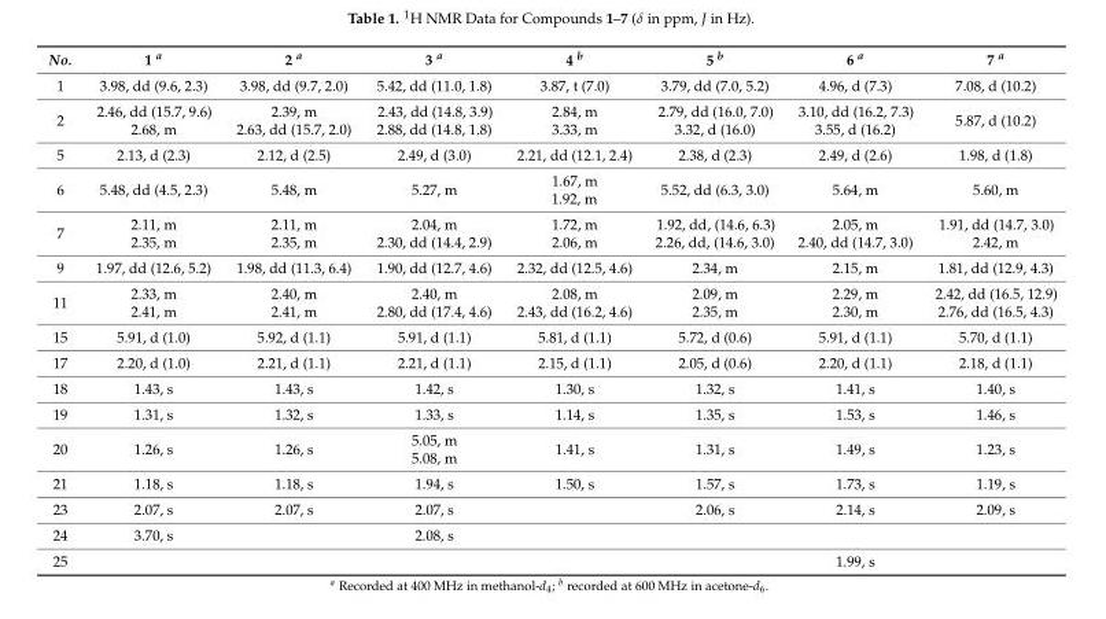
<table><thead><tr><td>No.</td><td>1 a</td><td>2 a</td><td>3 a</td><td>4 b</td><td>5 b</td><td>6 a</td><td>7 a</td></tr></thead><tbody><tr><td>1</td><td>3.98, dd (9.6, 2.3)</td><td>3.98, dd (9.7, 2.0)</td><td>5.42, dd (11.0, 1.8)</td><td>3.87, t (7.0)</td><td>3.79, dd (7.0, 5.2)</td><td>4.96, d (7.3)</td><td>7.08, d (10.2)</td></tr><tr><td>2</td><td>2.46, dd (15.7, 9.6) 2.68, m</td><td>2.39, m 2.63, dd (15.7, 2.0)</td><td>2.43, dd (14.8, 3.9) 2.88, dd (14.8, 1.8)</td><td>2.84, m 3.33, m</td><td>2.79, dd (16.0, 7.0) 3.32, d (16.0)</td><td>3.10, dd (16.2, 7.3) 3.55, d (16.2)</td><td>5.87, d (10.2)</td></tr><tr><td>5</td><td>2.13, d (2.3)</td><td>2.12, d (2.5)</td><td>2.49, d (3.0)</td><td>2.21, dd (12.1, 2.4)</td><td>2.38, d (2.3)</td><td>2.49, d (2.6)</td><td>1.98, d (1.8)</td></tr><tr><td>6</td><td>5.48, dd (4.5, 2.3)</td><td>5.48, m</td><td>5.27, m</td><td>1.67, m 1.92, m</td><td>5.52, dd (6.3, 3.0)</td><td>5.64, m</td><td>5.60, m</td></tr><tr><td>7</td><td>2.11, m 2.35, m</td><td>2.11, m 2.35, m</td><td>2.04, m 2.30, dd (14.4, 2.9)</td><td>1.72, m 2.06, m</td><td>1.92, dd, (14.6, 6.3) 2.26, dd, (14.6, 3.0)</td><td>2.05, m 2.40, dd (14.7, 3.0)</td><td>1.91, dd (14.7, 3.0) 2.42, m</td></tr><tr><td>9</td><td>1.97, dd (12.6, 5.2)</td><td>1.98, dd (11.3, 6.4)</td><td>1.90, dd (12.7, 4.6)</td><td>2.32, dd (12.5, 4.6)</td><td>2.34, m</td><td>2.15, m</td><td>1.81, dd (12.9, 4.3)</td></tr><tr><td>11</td><td>2.33, m 2.41, m</td><td>2.40, m 2.41, m</td><td>2.40, m 2.80, dd (17.4, 4.6)</td><td>2.08, m 2.43, dd (16.2, 4.6)</td><td>2.09, m 2.35, m</td><td>2.29, m 2.30, m</td><td>2.42, dd (16.5, 12.9) 2.76, dd (16.5, 4.3)</td></tr><tr><td>15</td><td>5.91, d (1.0)</td><td>5.92, d (1.1)</td><td>5.91, d (1.1)</td><td>5.81, d (1.1)</td><td>5.72, d (0.6)</td><td>5.91, d (1.1)</td><td>5.70, d (1.1)</td></tr><tr><td>17</td><td>2.20, d (1.0)</td><td>2.21, d (1.1)</td><td>2.21, d (1.1)</td><td>2.15, d (1.1)</td><td>2.05, d (0.6)</td><td>2.20, d (1.1)</td><td>2.18, d (1.1)</td></tr><tr><td>18</td><td>1.43, s</td><td>1.43, s</td><td>1.42, s</td><td>1.30, s</td><td>1.32, s</td><td>1.41, s</td><td>1.40, s</td></tr><tr><td>19</td><td>1.31, s</td><td>1.32, s</td><td>1.33, s</td><td>1.14, s</td><td>1.35, s</td><td>1.53, s</td><td>1.46, s</td></tr><tr><td>20</td><td>1.26, s</td><td>1.26, s</td><td>5.05, m 5.08, m</td><td>1.41, s</td><td>1.31, s</td><td>1.49, s</td><td>1.23, s</td></tr><tr><td>21</td><td>1.18, s</td><td>1.18, s</td><td>1.94, s</td><td>1.50, s</td><td>1.57, s</td><td>1.73, s</td><td>1.19, s</td></tr><tr><td>23</td><td>2.07, s</td><td>2.07, s</td><td>2.07, s</td><td></td><td>2.06, s</td><td>2.14, s</td><td>2.09, s</td></tr><tr><td>24</td><td>3.70, s</td><td></td><td>2.08, s</td><td></td><td></td><td></td><td></td></tr><tr><td>25</td><td></td><td></td><td></td><td></td><td></td><td>1.99, s</td><td></td></tr></tbody></table>